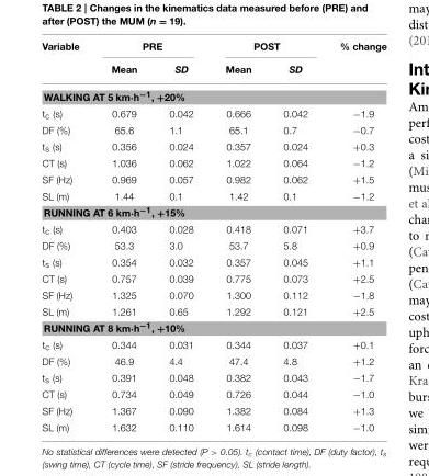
<table><thead><tr><td rowspan="2">Variable</td><td colspan="2">PRE</td><td colspan="2">POST</td><td rowspan="2">% change</td></tr><tr><td>Mean</td><td>SD</td><td>Mean</td><td>SD</td></tr></thead><tbody><tr><td colspan="6">WALKING AT 5 km·h<sup>−1</sup>, +20%</td></tr><tr><td>t<sub>c</sub> (s)</td><td>0.679</td><td>0.042</td><td>0.666</td><td>0.042</td><td>−1.9</td></tr><tr><td>DF (%)</td><td>65.6</td><td>1.1</td><td>65.1</td><td>0.7</td><td>−0.7</td></tr><tr><td>t<sub>s</sub> (s)</td><td>0.356</td><td>0.024</td><td>0.357</td><td>0.024</td><td>+0.3</td></tr><tr><td>CT (s)</td><td>1.036</td><td>0.062</td><td>1.022</td><td>0.064</td><td>−1.2</td></tr><tr><td>SF (Hz)</td><td>0.969</td><td>0.057</td><td>0.982</td><td>0.062</td><td>+1.5</td></tr><tr><td>SL (m)</td><td>1.44</td><td>0.1</td><td>1.42</td><td>0.1</td><td>−1.2</td></tr><tr><td colspan="6">RUNNING AT 6 km·h<sup>−1</sup>, +15%</td></tr><tr><td>t<sub>c</sub> (s)</td><td>0.403</td><td>0.028</td><td>0.418</td><td>0.071</td><td>+3.7</td></tr><tr><td>DF (%)</td><td>53.3</td><td>3.0</td><td>53.7</td><td>5.8</td><td>+0.9</td></tr><tr><td>t<sub>s</sub> (s)</td><td>0.354</td><td>0.032</td><td>0.357</td><td>0.045</td><td>+1.1</td></tr><tr><td>CT (s)</td><td>0.757</td><td>0.039</td><td>0.775</td><td>0.073</td><td>+2.5</td></tr><tr><td>SF (Hz)</td><td>1.325</td><td>0.070</td><td>1.300</td><td>0.112</td><td>−1.8</td></tr><tr><td>SL (m)</td><td>1.261</td><td>0.65</td><td>1.292</td><td>0.121</td><td>+2.5</td></tr><tr><td colspan="6">RUNNING AT 8 km·h<sup>−1</sup>, +10%</td></tr><tr><td>t<sub>c</sub> (s)</td><td>0.344</td><td>0.031</td><td>0.344</td><td>0.037</td><td>+0.1</td></tr><tr><td>DF (%)</td><td>46.9</td><td>4.4</td><td>47.4</td><td>4.8</td><td>+1.2</td></tr><tr><td>t<sub>s</sub> (s)</td><td>0.391</td><td>0.048</td><td>0.382</td><td>0.043</td><td>−1.7</td></tr><tr><td>CT (s)</td><td>0.734</td><td>0.049</td><td>0.726</td><td>0.044</td><td>−1.0</td></tr><tr><td>SF (Hz)</td><td>1.367</td><td>0.090</td><td>1.382</td><td>0.084</td><td>+1.3</td></tr><tr><td>SL (m)</td><td>1.632</td><td>0.110</td><td>1.614</td><td>0.098</td><td>−1.0</td></tr></tbody></table>